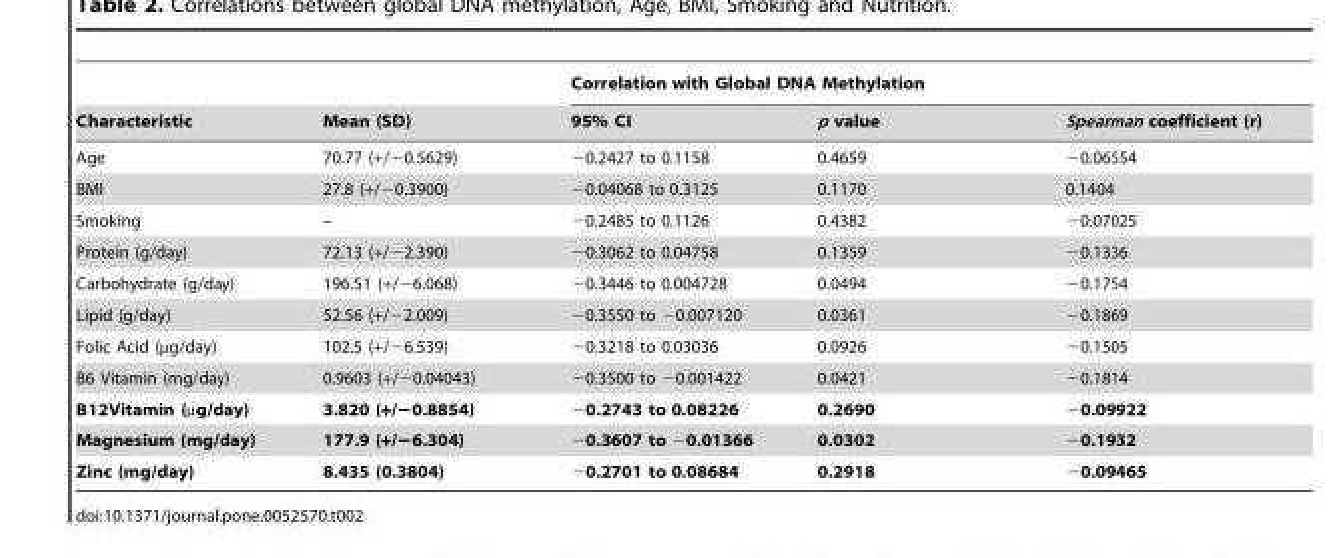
<table><thead><tr><td rowspan="2">Characteristic</td><td rowspan="2">Mean (SD)</td><td colspan="3">Correlation with Global DNA Methylation</td></tr><tr><td>95% CI</td><td>p value</td><td>Spearman coefficient (r)</td></tr></thead><tbody><tr><td>Age</td><td>70.77 (+/−0.5629)</td><td>−0.2427 to 0.1158</td><td>0.4659</td><td>−0.06554</td></tr><tr><td>BMI</td><td>27.8 (+/−0.3900)</td><td>−0.04068 to 0.3125</td><td>0.1170</td><td>0.1404</td></tr><tr><td>Smoking</td><td>–</td><td>−0.2485 to 0.1126</td><td>0.4382</td><td>−0.07025</td></tr><tr><td>Protein (g/day)</td><td>72.13 (+/−2.390)</td><td>−0.3062 to 0.04758</td><td>0.1359</td><td>−0.1336</td></tr><tr><td>Carbohydrate (g/day)</td><td>196.51 (+/−6.068)</td><td>−0.3446 to 0.004728</td><td>0.0494</td><td>−0.1754</td></tr><tr><td>Lipid (g/day)</td><td>52.56 (+/−2.009)</td><td>−0.3550 to −0.007120</td><td>0.0361</td><td>−0.1869</td></tr><tr><td>Folic Acid (µg/day)</td><td>102.5 (+/−6.539)</td><td>−0.3218 to 0.03036</td><td>0.0926</td><td>−0.1505</td></tr><tr><td>B6 Vitamin (mg/day)</td><td>0.9603 (+/−0.04043)</td><td>−0.3500 to −0.001422</td><td>0.0421</td><td>−0.1814</td></tr><tr><td>B12Vitamin (µg/day)</td><td>3.820 (+/−0.8854)</td><td>−0.2743 to 0.08226</td><td>0.2690</td><td>−0.09922</td></tr><tr><td>Magnesium (mg/day)</td><td>177.9 (+/−6.304)</td><td>−0.3607 to −0.01366</td><td>0.0302</td><td>−0.1932</td></tr><tr><td>Zinc (mg/day)</td><td>8.435 (0.3804)</td><td>−0.2701 to 0.08684</td><td>0.2918</td><td>−0.09465</td></tr></tbody></table>